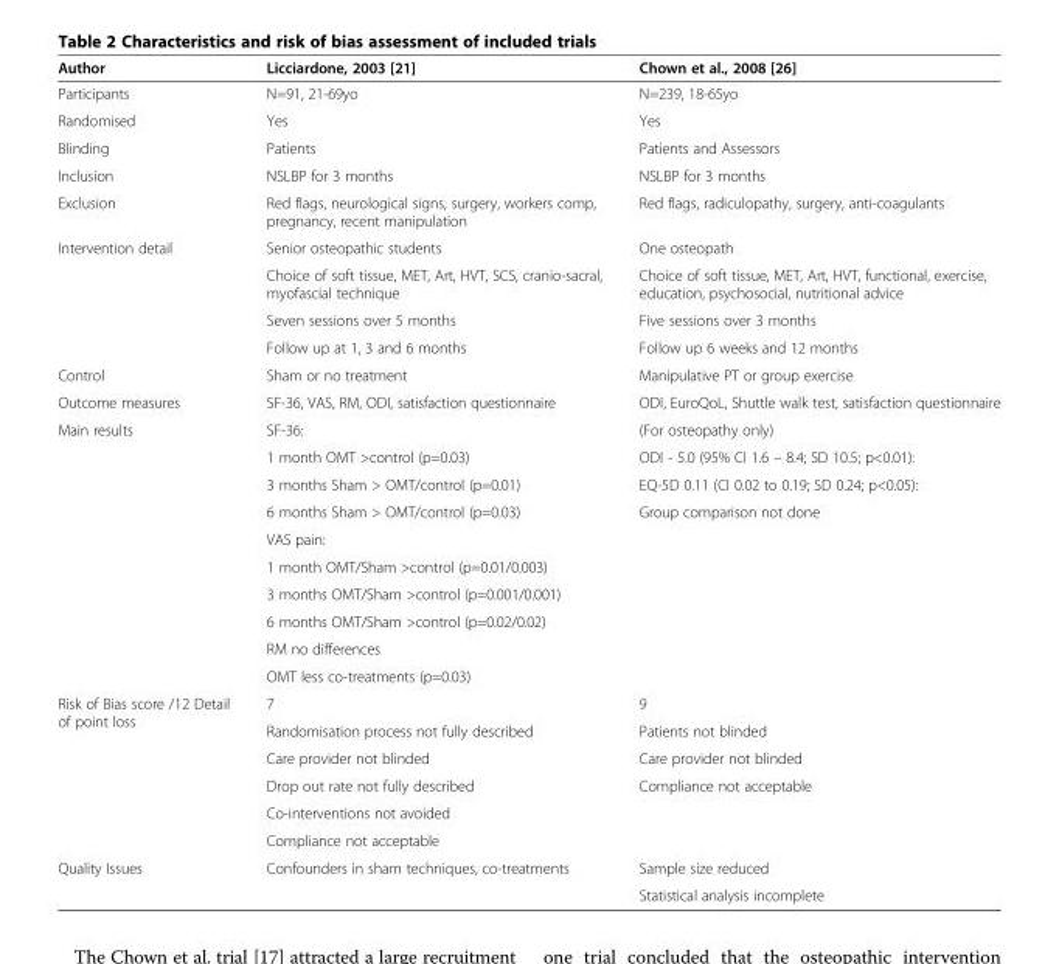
<table><thead><tr><td>Author</td><td>Licciardone, 2003 [21]</td><td>Chown et al., 2008 [26]</td></tr></thead><tbody><tr><td>Participants</td><td>N=91, 21-69yo</td><td>N=239, 18-65yo</td></tr><tr><td>Randomised</td><td>Yes</td><td>Yes</td></tr><tr><td>Blinding</td><td>Patients</td><td>Patients and Assessors</td></tr><tr><td>Inclusion</td><td>NSLBP for 3 months</td><td>NSLBP for 3 months</td></tr><tr><td>Exclusion</td><td>Red flags, neurological signs, surgery, workers comp, pregnancy, recent manipulation</td><td>Red flags, radiculopathy, surgery, anti-coagulants</td></tr><tr><td rowspan="4">Intervention detail</td><td>Senior osteopathic students</td><td>One osteopath</td></tr><tr><td>Choice of soft tissue, MET, Art, HVT, SCS, cranio-sacral, myofascial technique</td><td>Choice of soft tissue, MET, Art, HVT, functional, exercise, education, psychosocial, nutritional advice</td></tr><tr><td>Seven sessions over 5 months</td><td>Five sessions over 3 months</td></tr><tr><td>Follow up at 1, 3 and 6 months</td><td>Follow up 6 weeks and 12 months</td></tr><tr><td>Control</td><td>Sham or no treatment</td><td>Manipulative PT or group exercise</td></tr><tr><td>Outcome measures</td><td>SF-36, VAS, RM, ODI, satisfaction questionnaire</td><td>ODI, EuroQoL, Shuttle walk test, satisfaction questionnaire</td></tr><tr><td rowspan="10">Main results</td><td>SF-36:</td><td>(For osteopathy only)</td></tr><tr><td>1 month OMT &gt;control (p=0.03)</td><td>ODI - 5.0 (95% CI 1.6 – 8.4; SD 10.5; p&lt;0.01):</td></tr><tr><td>3 months Sham &gt; OMT/control (p=0.01)</td><td>EQ-5D 0.11 (CI 0.02 to 0.19; SD 0.24; p&lt;0.05):</td></tr><tr><td>6 months Sham &gt; OMT/control (p=0.03)</td><td rowspan="7">Group comparison not done</td></tr><tr><td>VAS pain:</td></tr><tr><td>1 month OMT/Sham &gt;control (p=0.01/0.003)</td></tr><tr><td>3 months OMT/Sham &gt;control (p=0.001/0.001)</td></tr><tr><td>6 months OMT/Sham &gt;control (p=0.02/0.02)</td></tr><tr><td>RM no differences</td></tr><tr><td>OMT less co-treatments (p=0.03)</td></tr><tr><td rowspan="6">Risk of Bias score /12 Detail of point loss</td><td>7</td><td>9</td></tr><tr><td>Randomisation process not fully described</td><td>Patients not blinded</td></tr><tr><td>Care provider not blinded</td><td>Care provider not blinded</td></tr><tr><td>Drop out rate not fully described</td><td rowspan="3">Compliance not acceptable</td></tr><tr><td>Co-interventions not avoided</td></tr><tr><td>Compliance not acceptable</td></tr><tr><td rowspan="2">Quality Issues</td><td rowspan="2">Confounders in sham techniques, co-treatments</td><td>Sample size reduced</td></tr><tr><td>Statistical analysis incomplete</td></tr></tbody></table>